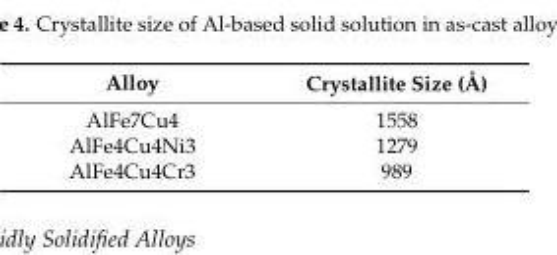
<table><thead><tr><td>Alloy</td><td>Crystallite Size (Å)</td></tr></thead><tbody><tr><td>AlFe7Cu4</td><td>1558</td></tr><tr><td>AlFe4Cu4Ni3</td><td>1279</td></tr><tr><td>AlFe4Cu4Cr3</td><td>989</td></tr></tbody></table>